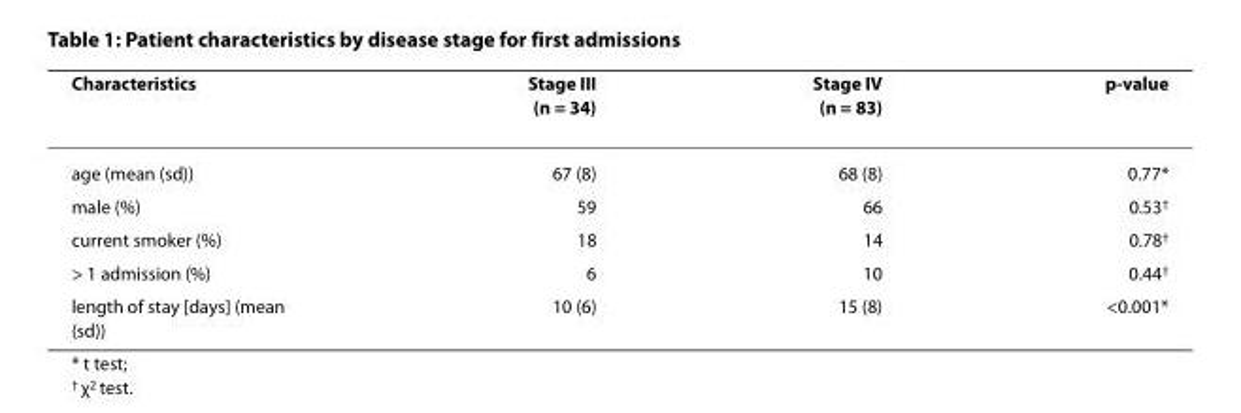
<table><thead><tr><td>Characteristics</td><td>Stage III (n = 34)</td><td>Stage IV (n = 83)</td><td>p-value</td></tr></thead><tbody><tr><td>age (mean (sd))</td><td>67 (8)</td><td>68 (8)</td><td>0.77*</td></tr><tr><td>male (%)</td><td>59</td><td>66</td><td>0.53<sup>†</sup></td></tr><tr><td>current smoker (%)</td><td>18</td><td>14</td><td>0.78<sup>†</sup></td></tr><tr><td>&gt; 1 admission (%)</td><td>6</td><td>10</td><td>0.44<sup>†</sup></td></tr><tr><td>length of stay [days] (mean (sd))</td><td>10 (6)</td><td>15 (8)</td><td>&lt;0.001*</td></tr></tbody></table>